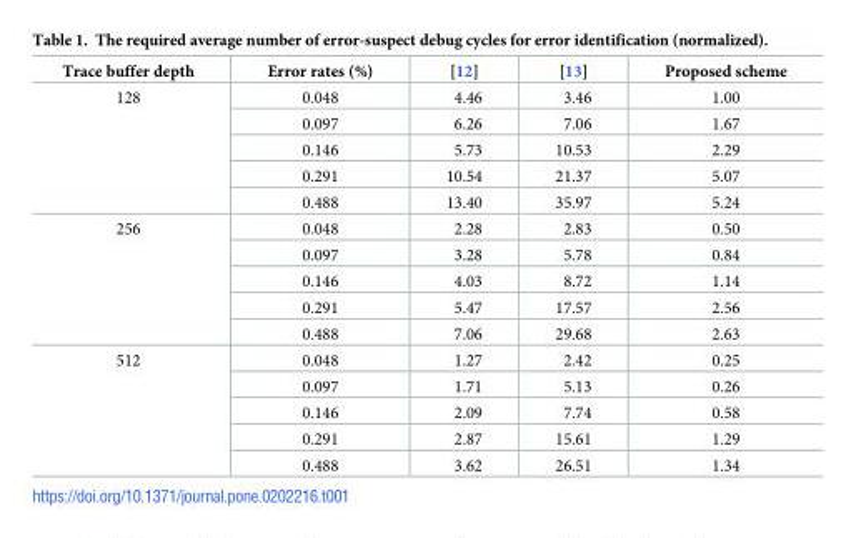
<table><thead><tr><td>Trace buffer depth</td><td>Error rates (%)</td><td>[12]</td><td>[13]</td><td>Proposed scheme</td></tr></thead><tbody><tr><td rowspan="5">128</td><td>0.048</td><td>4.46</td><td>3.46</td><td>1.00</td></tr><tr><td>0.097</td><td>6.26</td><td>7.06</td><td>1.67</td></tr><tr><td>0.146</td><td>5.73</td><td>10.53</td><td>2.29</td></tr><tr><td>0.291</td><td>10.54</td><td>21.37</td><td>5.07</td></tr><tr><td>0.488</td><td>13.40</td><td>35.97</td><td>5.24</td></tr><tr><td rowspan="5">256</td><td>0.048</td><td>2.28</td><td>2.83</td><td>0.50</td></tr><tr><td>0.097</td><td>3.28</td><td>5.78</td><td>0.84</td></tr><tr><td>0.146</td><td>4.03</td><td>8.72</td><td>1.14</td></tr><tr><td>0.291</td><td>5.47</td><td>17.57</td><td>2.56</td></tr><tr><td>0.488</td><td>7.06</td><td>29.68</td><td>2.63</td></tr><tr><td rowspan="5">512</td><td>0.048</td><td>1.27</td><td>2.42</td><td>0.25</td></tr><tr><td>0.097</td><td>1.71</td><td>5.13</td><td>0.26</td></tr><tr><td>0.146</td><td>2.09</td><td>7.74</td><td>0.58</td></tr><tr><td>0.291</td><td>2.87</td><td>15.61</td><td>1.29</td></tr><tr><td>0.488</td><td>3.62</td><td>26.51</td><td>1.34</td></tr></tbody></table>